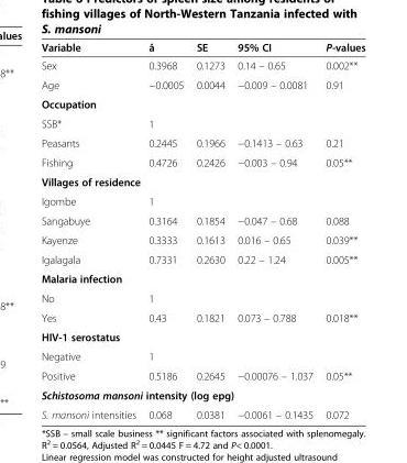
<table><thead><tr><td>Variable</td><td>â</td><td>SE</td><td>95% CI</td><td>P-values</td></tr></thead><tbody><tr><td>Sex</td><td>0.3968</td><td>0.1273</td><td>0.14 – 0.65</td><td>0.002**</td></tr><tr><td>Age</td><td>−0.0005</td><td>0.0044</td><td>−0.009 – 0.0081</td><td>0.91</td></tr><tr><td colspan="5">Occupation</td></tr><tr><td>SSB*</td><td>1</td><td></td><td></td><td></td></tr><tr><td>Peasants</td><td>0.2445</td><td>0.1966</td><td>−0.1413 – 0.63</td><td>0.21</td></tr><tr><td>Fishing</td><td>0.4726</td><td>0.2426</td><td>−0.003 – 0.94</td><td>0.05**</td></tr><tr><td colspan="5">Villages of residence</td></tr><tr><td>Igombe</td><td>1</td><td></td><td></td><td></td></tr><tr><td>Sangabuye</td><td>0.3164</td><td>0.1854</td><td>−0.047 – 0.68</td><td>0.088</td></tr><tr><td>Kayenze</td><td>0.3333</td><td>0.1613</td><td>0.016 – 0.65</td><td>0.039**</td></tr><tr><td>Igalagala</td><td>0.7331</td><td>0.2630</td><td>0.22 – 1.24</td><td>0.005**</td></tr><tr><td colspan="5">Malaria infection</td></tr><tr><td>No</td><td>1</td><td></td><td></td><td></td></tr><tr><td>Yes</td><td>0.43</td><td>0.1821</td><td>0.073 – 0.788</td><td>0.018**</td></tr><tr><td colspan="5">HIV-1 serostatus</td></tr><tr><td>Negative</td><td>1</td><td></td><td></td><td></td></tr><tr><td>Positive</td><td>0.5186</td><td>0.2645</td><td>−0.00076 – 1.037</td><td>0.05**</td></tr><tr><td colspan="5">Schistosoma mansoni intensity (log epg)</td></tr><tr><td>S. mansoni intensities</td><td>0.068</td><td>0.0381</td><td>−0.0061 – 0.1435</td><td>0.072</td></tr></tbody></table>